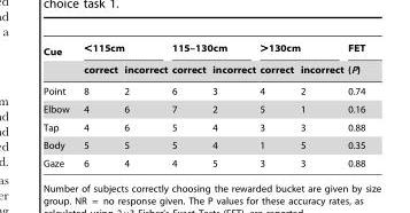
<table><thead><tr><td rowspan="2">Cue</td><td colspan="2">&lt;115cm</td><td colspan="2">115–130cm</td><td colspan="2">&gt;130cm</td><td rowspan="2">FET (P)</td></tr><tr><td>correct</td><td>incorrect</td><td>correct</td><td>incorrect</td><td>correct</td><td>incorrect</td></tr></thead><tbody><tr><td>Point</td><td>8</td><td>2</td><td>6</td><td>3</td><td>4</td><td>2</td><td>0.74</td></tr><tr><td>Elbow</td><td>4</td><td>6</td><td>7</td><td>2</td><td>5</td><td>1</td><td>0.16</td></tr><tr><td>Tap</td><td>4</td><td>6</td><td>5</td><td>4</td><td>3</td><td>3</td><td>0.88</td></tr><tr><td>Body</td><td>5</td><td>5</td><td>5</td><td>4</td><td>1</td><td>5</td><td>0.35</td></tr><tr><td>Gaze</td><td>6</td><td>4</td><td>4</td><td>5</td><td>3</td><td>3</td><td>0.88</td></tr></tbody></table>